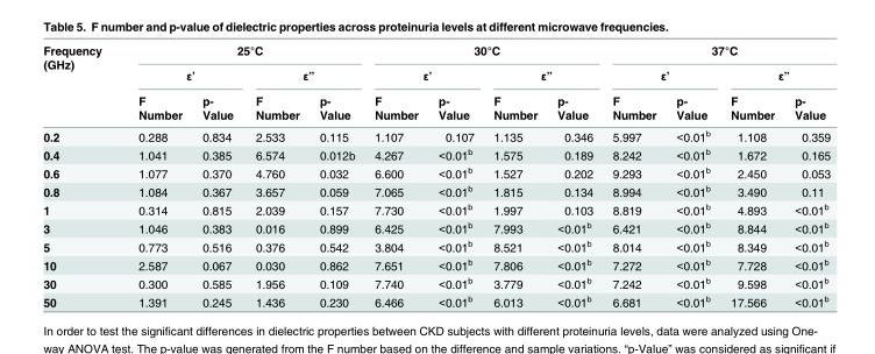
<table><thead><tr><td rowspan="3">Frequency (GHz)</td><td colspan="4">25°C</td><td colspan="4">30°C</td><td colspan="4">37°C</td></tr><tr><td colspan="2">ε’</td><td colspan="2">ε”</td><td colspan="2">ε’</td><td colspan="2">ε”</td><td colspan="2">ε’</td><td colspan="2">ε”</td></tr><tr><td>F Number</td><td>p- Value</td><td>F Number</td><td>p- Value</td><td>F Number</td><td>p- Value</td><td>F Number</td><td>p- Value</td><td>F Number</td><td>p- Value</td><td>F Number</td><td>p- Value</td></tr></thead><tbody><tr><td>0.2</td><td>0.288</td><td>0.834</td><td>2.533</td><td>0.115</td><td>1.107</td><td>0.107</td><td>1.135</td><td>0.346</td><td>5.997</td><td>&lt;0.01<sup>b</sup></td><td>1.108</td><td>0.359</td></tr><tr><td>0.4</td><td>1.041</td><td>0.385</td><td>6.574</td><td>0.012b</td><td>4.267</td><td>&lt;0.01<sup>b</sup></td><td>1.575</td><td>0.189</td><td>8.242</td><td>&lt;0.01<sup>b</sup></td><td>1.672</td><td>0.165</td></tr><tr><td>0.6</td><td>1.077</td><td>0.370</td><td>4.760</td><td>0.032</td><td>6.600</td><td>&lt;0.01<sup>b</sup></td><td>1.527</td><td>0.202</td><td>9.293</td><td>&lt;0.01<sup>b</sup></td><td>2.450</td><td>0.053</td></tr><tr><td>0.8</td><td>1.084</td><td>0.367</td><td>3.657</td><td>0.059</td><td>7.065</td><td>&lt;0.01<sup>b</sup></td><td>1.815</td><td>0.134</td><td>8.994</td><td>&lt;0.01<sup>b</sup></td><td>3.490</td><td>0.11</td></tr><tr><td>1</td><td>0.314</td><td>0.815</td><td>2.039</td><td>0.157</td><td>7.730</td><td>&lt;0.01<sup>b</sup></td><td>1.997</td><td>0.103</td><td>8.819</td><td>&lt;0.01<sup>b</sup></td><td>4.893</td><td>&lt;0.01<sup>b</sup></td></tr><tr><td>3</td><td>1.046</td><td>0.383</td><td>0.016</td><td>0.899</td><td>6.425</td><td>&lt;0.01<sup>b</sup></td><td>7.993</td><td>&lt;0.01<sup>b</sup></td><td>6.421</td><td>&lt;0.01<sup>b</sup></td><td>8.844</td><td>&lt;0.01<sup>b</sup></td></tr><tr><td>5</td><td>0.773</td><td>0.516</td><td>0.376</td><td>0.542</td><td>3.804</td><td>&lt;0.01<sup>b</sup></td><td>8.521</td><td>&lt;0.01<sup>b</sup></td><td>8.014</td><td>&lt;0.01<sup>b</sup></td><td>8.349</td><td>&lt;0.01<sup>b</sup></td></tr><tr><td>10</td><td>2.587</td><td>0.067</td><td>0.030</td><td>0.862</td><td>7.651</td><td>&lt;0.01<sup>b</sup></td><td>7.806</td><td>&lt;0.01<sup>b</sup></td><td>7.272</td><td>&lt;0.01<sup>b</sup></td><td>7.728</td><td>&lt;0.01<sup>b</sup></td></tr><tr><td>30</td><td>0.300</td><td>0.585</td><td>1.956</td><td>0.109</td><td>7.740</td><td>&lt;0.01<sup>b</sup></td><td>3.779</td><td>&lt;0.01<sup>b</sup></td><td>7.242</td><td>&lt;0.01<sup>b</sup></td><td>9.598</td><td>&lt;0.01<sup>b</sup></td></tr><tr><td>50</td><td>1.391</td><td>0.245</td><td>1.436</td><td>0.230</td><td>6.466</td><td>&lt;0.01<sup>b</sup></td><td>6.013</td><td>&lt;0.01<sup>b</sup></td><td>6.681</td><td>&lt;0.01<sup>b</sup></td><td>17.566</td><td>&lt;0.01<sup>b</sup></td></tr></tbody></table>